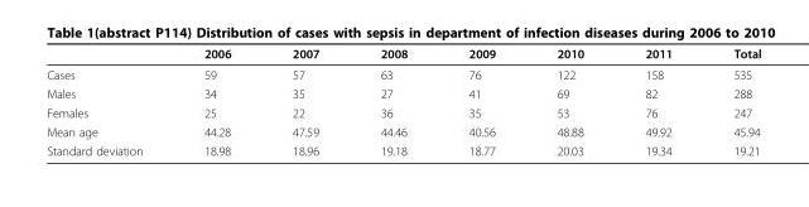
<table><thead><tr><td></td><td>2006</td><td>2007</td><td>2008</td><td>2009</td><td>2010</td><td>2011</td><td>Total</td></tr></thead><tbody><tr><td>Cases</td><td>59</td><td>57</td><td>63</td><td>76</td><td>122</td><td>158</td><td>535</td></tr><tr><td>Males</td><td>34</td><td>35</td><td>27</td><td>41</td><td>69</td><td>82</td><td>288</td></tr><tr><td>Females</td><td>25</td><td>22</td><td>36</td><td>35</td><td>53</td><td>76</td><td>247</td></tr><tr><td>Mean age</td><td>44.28</td><td>47.59</td><td>44.46</td><td>40.56</td><td>48.88</td><td>49.92</td><td>45.94</td></tr><tr><td>Standard deviation</td><td>18.98</td><td>18.96</td><td>19.18</td><td>18.77</td><td>20.03</td><td>19.34</td><td>19.21</td></tr></tbody></table>